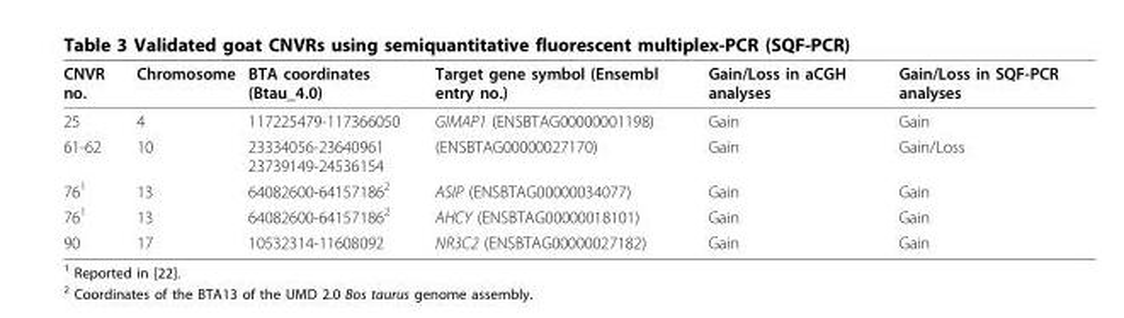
<table><thead><tr><td>CNVR no.</td><td>Chromosome</td><td>BTA coordinates (Btau_4.0)</td><td>Target gene symbol (Ensembl entry no.)</td><td>Gain/Loss in aCGH analyses</td><td>Gain/Loss in SQF-PCR analyses</td></tr></thead><tbody><tr><td>25</td><td>4</td><td>117225479-117366050</td><td>GIMAP1 (ENSBTAG00000001198)</td><td>Gain</td><td>Gain</td></tr><tr><td>61-62</td><td>10</td><td>23334056-23640961 23739149-24536154</td><td>(ENSBTAG00000027170)</td><td>Gain</td><td>Gain/Loss</td></tr><tr><td>76<sup>1</sup></td><td>13</td><td>64082600-64157186<sup>2</sup></td><td>ASIP (ENSBTAG00000034077)</td><td>Gain</td><td>Gain</td></tr><tr><td>76<sup>1</sup></td><td>13</td><td>64082600-64157186<sup>2</sup></td><td>AHCY (ENSBTAG00000018101)</td><td>Gain</td><td>Gain</td></tr><tr><td>90</td><td>17</td><td>10532314-11608092</td><td>NR3C2 (ENSBTAG00000027182)</td><td>Gain</td><td>Gain</td></tr></tbody></table>